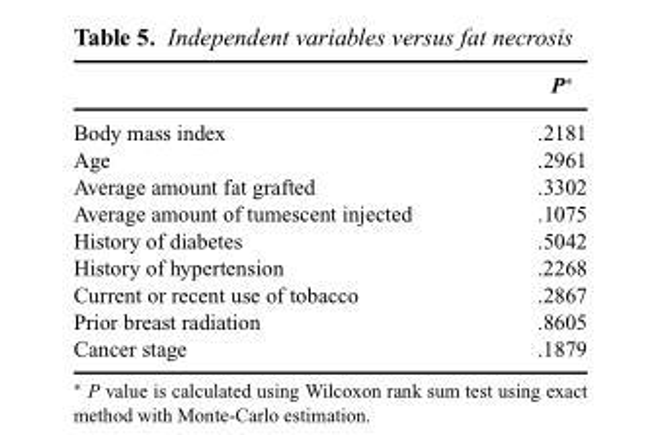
<table><thead><tr><td></td><td>P∗</td></tr></thead><tbody><tr><td>Body mass index</td><td>.2181</td></tr><tr><td>Age</td><td>.2961</td></tr><tr><td>Average amount fat grafted</td><td>.3302</td></tr><tr><td>Average amount of tumescent injected</td><td>.1075</td></tr><tr><td>History of diabetes</td><td>.5042</td></tr><tr><td>History of hypertension</td><td>.2268</td></tr><tr><td>Current or recent use of tobacco</td><td>.2867</td></tr><tr><td>Prior breast radiation</td><td>.8605</td></tr><tr><td>Cancer stage</td><td>.1879</td></tr></tbody></table>